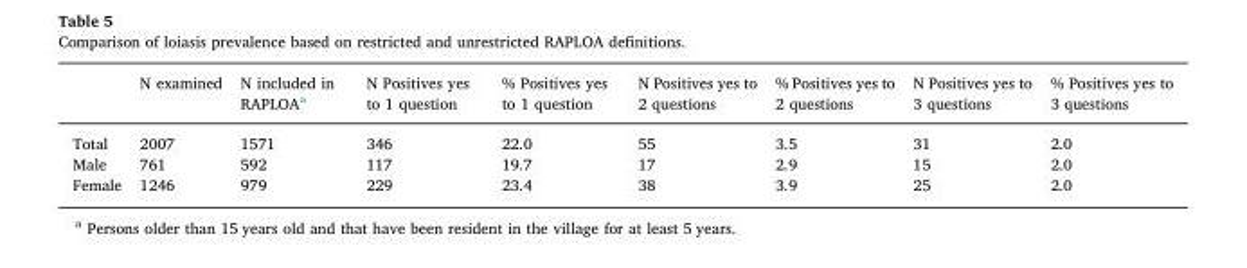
<table><thead><tr><td></td><td>N examined</td><td>N included in RAPLOA<sup>a</sup></td><td>N Positives yes to 1 question</td><td>% Positives yes to 1 question</td><td>N Positives yes to 2 questions</td><td>% Positives yes to 2 questions</td><td>N Positives yes to 3 questions</td><td>% Positives yes to 3 questions</td></tr></thead><tbody><tr><td>Total</td><td>2007</td><td>1571</td><td>346</td><td>22.0</td><td>55</td><td>3.5</td><td>31</td><td>2.0</td></tr><tr><td>Male</td><td>761</td><td>592</td><td>117</td><td>19.7</td><td>17</td><td>2.9</td><td>15</td><td>2.0</td></tr><tr><td>Female</td><td>1246</td><td>979</td><td>229</td><td>23.4</td><td>38</td><td>3.9</td><td>25</td><td>2.0</td></tr></tbody></table>